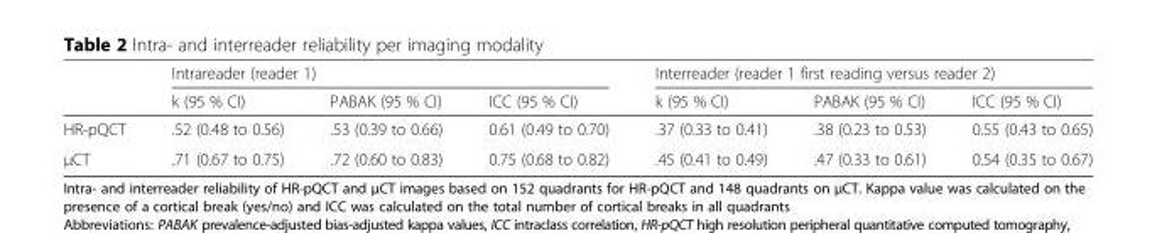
<table><thead><tr><td rowspan="2"></td><td colspan="3">Intrareader (reader 1)</td><td colspan="3">Interreader (reader 1 first reading versus reader 2)</td></tr><tr><td>k (95 % CI)</td><td>PABAK (95 % CI)</td><td>ICC (95 % CI)</td><td>k (95 % CI)</td><td>PABAK (95 % CI)</td><td>ICC (95 % CI)</td></tr></thead><tbody><tr><td>HR-pQCT</td><td>.52 (0.48 to 0.56)</td><td>.53 (0.39 to 0.66)</td><td>0.61 (0.49 to 0.70)</td><td>.37 (0.33 to 0.41)</td><td>.38 (0.23 to 0.53)</td><td>0.55 (0.43 to 0.65)</td></tr><tr><td>μCT</td><td>.71 (0.67 to 0.75)</td><td>.72 (0.60 to 0.83)</td><td>0.75 (0.68 to 0.82)</td><td>.45 (0.41 to 0.49)</td><td>.47 (0.33 to 0.61)</td><td>0.54 (0.35 to 0.67)</td></tr></tbody></table>